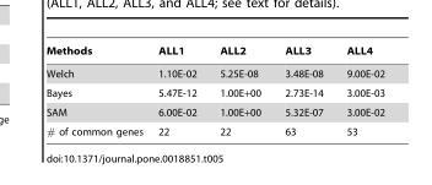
<table><thead><tr><td>Methods</td><td>ALL1</td><td>ALL2</td><td>ALL3</td><td>ALL4</td></tr></thead><tbody><tr><td>Welch</td><td>1.10E-02</td><td>5.25E-08</td><td>3.48E-08</td><td>9.00E-02</td></tr><tr><td>Bayes</td><td>5.47E-12</td><td>1.00E+00</td><td>2.73E-14</td><td>3.00E-03</td></tr><tr><td>SAM</td><td>6.00E-02</td><td>1.00E+00</td><td>5.32E-07</td><td>3.00E-02</td></tr><tr><td># of common genes</td><td>22</td><td>22</td><td>63</td><td>53</td></tr></tbody></table>